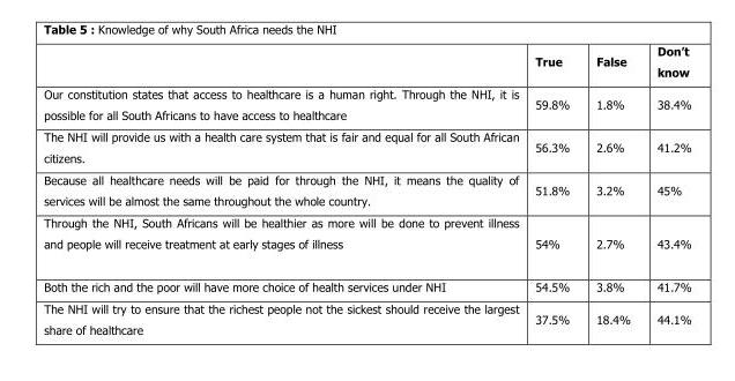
<table><thead><tr><td></td><td>True</td><td>False</td><td>Don’t know</td></tr></thead><tbody><tr><td>Our constitution states that access to healthcare is a human right. Through the NHI, it is possible for all South Africans to have access to healthcare</td><td>59.8%</td><td>1.8%</td><td>38.4%</td></tr><tr><td>The NHI will provide us with a health care system that is fair and equal for all South African citizens.</td><td>56.3%</td><td>2.6%</td><td>41.2%</td></tr><tr><td>Because all healthcare needs will be paid for through the NHI, it means the quality of services will be almost the same throughout the whole country.</td><td>51.8%</td><td>3.2%</td><td>45%</td></tr><tr><td>Through the NHI, South Africans will be healthier as more will be done to prevent illness and people will receive treatment at early stages of illness</td><td>54%</td><td>2.7%</td><td>43.4%</td></tr><tr><td>Both the rich and the poor will have more choice of health services under NHI</td><td>54.5%</td><td>3.8%</td><td>41.7%</td></tr><tr><td>The NHI will try to ensure that the richest people not the sickest should receive the largest share of healthcare</td><td>37.5%</td><td>18.4%</td><td>44.1%</td></tr></tbody></table>